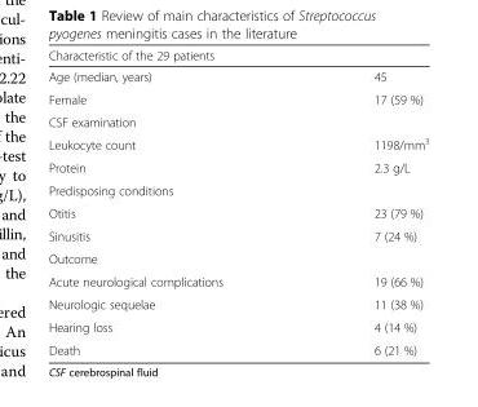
<table><thead><tr><td colspan="2">Characteristic of the 29 patients</td></tr><tr><td>Age (median, years)</td><td>45</td></tr></thead><tbody><tr><td>Female</td><td>17 (59 %)</td></tr><tr><td colspan="2">CSF examination</td></tr><tr><td>Leukocyte count</td><td>1198/mm<sup>3</sup></td></tr><tr><td>Protein</td><td>2.3 g/L</td></tr><tr><td colspan="2">Predisposing conditions</td></tr><tr><td>Otitis</td><td>23 (79 %)</td></tr><tr><td>Sinusitis</td><td>7 (24 %)</td></tr><tr><td colspan="2">Outcome</td></tr><tr><td>Acute neurological complications</td><td>19 (66 %)</td></tr><tr><td>Neurologic sequelae</td><td>11 (38 %)</td></tr><tr><td>Hearing loss</td><td>4 (14 %)</td></tr><tr><td>Death</td><td>6 (21 %)</td></tr></tbody></table>